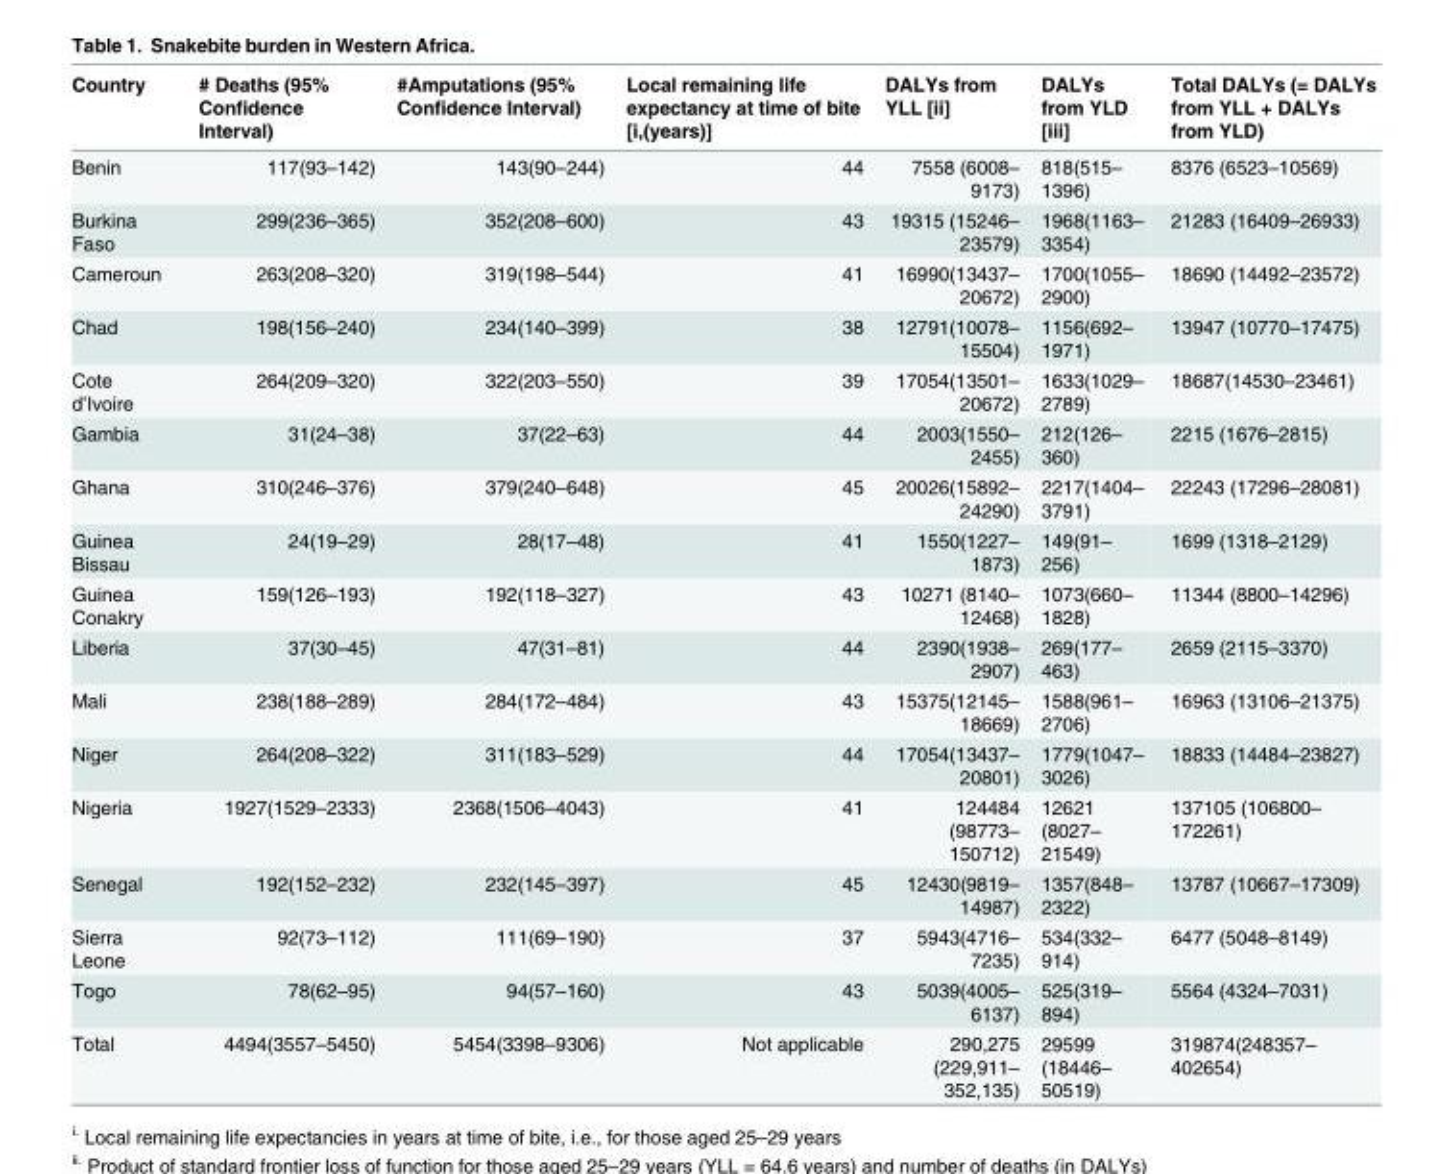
<table><thead><tr><td>Country</td><td># Deaths (95% Confidence Interval)</td><td>#Amputations (95% Confidence Interval)</td><td>Local remaining life expectancy at time of bite [i,(years)]</td><td>DALYs from YLL [ii]</td><td>DALYs from YLD [iii]</td><td>Total DALYs (= DALYs from YLL + DALYs from YLD)</td></tr></thead><tbody><tr><td>Benin</td><td>117(93–142)</td><td>143(90–244)</td><td>44</td><td>7558 (6008– 9173)</td><td>818(515– 1396)</td><td>8376 (6523–10569)</td></tr><tr><td>Burkina Faso</td><td>299(236–365)</td><td>352(208–600)</td><td>43</td><td>19315 (15246– 23579)</td><td>1968(1163– 3354)</td><td>21283 (16409–26933)</td></tr><tr><td>Cameroun</td><td>263(208–320)</td><td>319(198–544)</td><td>41</td><td>16990(13437– 20672)</td><td>1700(1055– 2900)</td><td>18690 (14492–23572)</td></tr><tr><td>Chad</td><td>198(156–240)</td><td>234(140–399)</td><td>38</td><td>12791(10078– 15504)</td><td>1156(692– 1971)</td><td>13947 (10770–17475)</td></tr><tr><td>Cote d’Ivoire</td><td>264(209–320)</td><td>322(203–550)</td><td>39</td><td>17054(13501– 20672)</td><td>1633(1029– 2789)</td><td>18687(14530–23461)</td></tr><tr><td>Gambia</td><td>31(24–38)</td><td>37(22–63)</td><td>44</td><td>2003(1550– 2455)</td><td>212(126– 360)</td><td>2215 (1676–2815)</td></tr><tr><td>Ghana</td><td>310(246–376)</td><td>379(240–648)</td><td>45</td><td>20026(15892– 24290)</td><td>2217(1404– 3791)</td><td>22243 (17296–28081)</td></tr><tr><td>Guinea Bissau</td><td>24(19–29)</td><td>28(17–48)</td><td>41</td><td>1550(1227– 1873)</td><td>149(91– 256)</td><td>1699 (1318–2129)</td></tr><tr><td>Guinea Conakry</td><td>159(126–193)</td><td>192(118–327)</td><td>43</td><td>10271 (8140– 12468)</td><td>1073(660– 1828)</td><td>11344 (8800–14296)</td></tr><tr><td>Liberia</td><td>37(30–45)</td><td>47(31–81)</td><td>44</td><td>2390(1938– 2907)</td><td>269(177– 463)</td><td>2659 (2115–3370)</td></tr><tr><td>Mali</td><td>238(188–289)</td><td>284(172–484)</td><td>43</td><td>15375(12145– 18669)</td><td>1588(961– 2706)</td><td>16963 (13106–21375)</td></tr><tr><td>Niger</td><td>264(208–322)</td><td>311(183–529)</td><td>44</td><td>17054(13437– 20801)</td><td>1779(1047– 3026)</td><td>18833 (14484–23827)</td></tr><tr><td>Nigeria</td><td>1927(1529–2333)</td><td>2368(1506–4043)</td><td>41</td><td>124484 (98773– 150712)</td><td>12621 (8027– 21549)</td><td>137105 (106800– 172261)</td></tr><tr><td>Senegal</td><td>192(152–232)</td><td>232(145–397)</td><td>45</td><td>12430(9819– 14987)</td><td>1357(848– 2322)</td><td>13787 (10667–17309)</td></tr><tr><td>Sierra Leone</td><td>92(73–112)</td><td>111(69–190)</td><td>37</td><td>5943(4716– 7235)</td><td>534(332– 914)</td><td>6477 (5048–8149)</td></tr><tr><td>Togo</td><td>78(62–95)</td><td>94(57–160)</td><td>43</td><td>5039(4005– 6137)</td><td>525(319– 894)</td><td>5564 (4324–7031)</td></tr><tr><td>Total</td><td>4494(3557–5450)</td><td>5454(3398–9306)</td><td>Not applicable</td><td>290,275 (229,911– 352,135)</td><td>29599 (18446– 50519)</td><td>319874(248357– 402654)</td></tr></tbody></table>